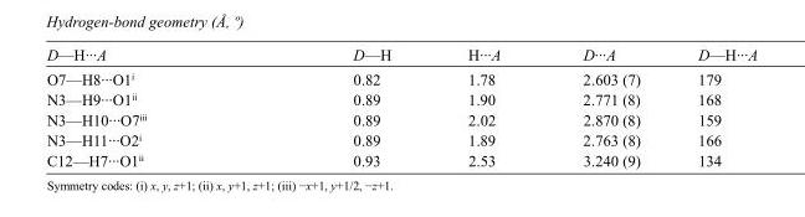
<table><tbody><tr><td>D—H···A</td><td>D—H</td><td>H···A</td><td>D···A</td><td>D—H···A</td></tr><tr><td>O7—H8···O1<sup>i</sup></td><td>0.82</td><td>1.78</td><td>2.603 (7)</td><td>179</td></tr><tr><td>N3—H9···O1<sup>ii</sup></td><td>0.89</td><td>1.90</td><td>2.771 (8)</td><td>168</td></tr><tr><td>N3—H10···O7<sup>iii</sup></td><td>0.89</td><td>2.02</td><td>2.870 (8)</td><td>159</td></tr><tr><td>N3—H11···O2<sup>i</sup></td><td>0.89</td><td>1.89</td><td>2.763 (8)</td><td>166</td></tr><tr><td>C12—H7···O1<sup>ii</sup></td><td>0.93</td><td>2.53</td><td>3.240 (9)</td><td>134</td></tr></tbody></table>